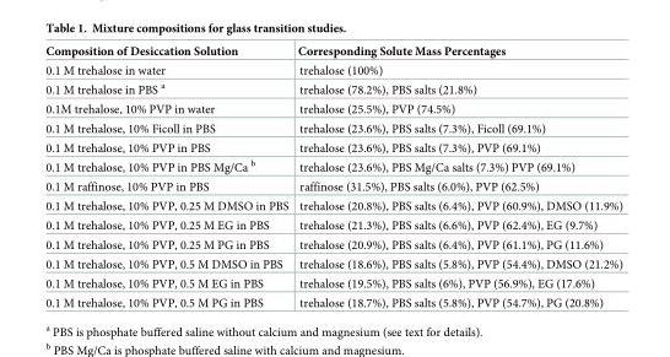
<table><thead><tr><td>Composition of Desiccation Solution</td><td>Corresponding Solute Mass Percentages</td></tr></thead><tbody><tr><td>0.1 M trehalose in water</td><td>trehalose (100%)</td></tr><tr><td>0.1 M trehalose in PBS <sup>a</sup></td><td>trehalose (78.2%), PBS salts (21.8%)</td></tr><tr><td>0.1M trehalose, 10% PVP in water</td><td>trehalose (25.5%), PVP (74.5%)</td></tr><tr><td>0.1 M trehalose, 10% Ficoll in PBS</td><td>trehalose (23.6%), PBS salts (7.3%), Ficoll (69.1%)</td></tr><tr><td>0.1 M trehalose, 10% PVP in PBS</td><td>trehalose (23.6%), PBS salts (7.3%), PVP (69.1%)</td></tr><tr><td>0.1 M trehalose, 10% PVP in PBS Mg/Ca <sup>b</sup></td><td>trehalose (23.6%), PBS Mg/Ca salts (7.3%) PVP (69.1%)</td></tr><tr><td>0.1 M raffinose, 10% PVP in PBS</td><td>raffinose (31.5%), PBS salts (6.0%), PVP (62.5%)</td></tr><tr><td>0.1 M trehalose, 10% PVP, 0.25 M DMSO in PBS</td><td>trehalose (20.8%), PBS salts (6.4%), PVP (60.9%), DMSO (11.9%)</td></tr><tr><td>0.1 M trehalose, 10% PVP, 0.25 M EG in PBS</td><td>trehalose (21.3%), PBS salts (6.6%), PVP (62.4%), EG (9.7%)</td></tr><tr><td>0.1 M trehalose, 10% PVP, 0.25 M PG in PBS</td><td>trehalose (20.9%), PBS salts (6.4%), PVP (61.1%), PG (11.6%)</td></tr><tr><td>0.1 M trehalose, 10% PVP, 0.5 M DMSO in PBS</td><td>trehalose (18.6%), PBS salts (5.8%), PVP (54.4%), DMSO (21.2%)</td></tr><tr><td>0.1 M trehalose, 10% PVP, 0.5 M EG in PBS</td><td>trehalose (19.5%), PBS salts (6%), PVP (56.9%), EG (17.6%)</td></tr><tr><td>0.1 M trehalose, 10% PVP, 0.5 M PG in PBS</td><td>trehalose (18.7%), PBS salts (5.8%), PVP (54.7%), PG (20.8%)</td></tr></tbody></table>